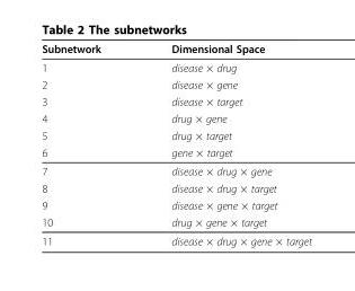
<table><thead><tr><td>Subnetwork</td><td>Dimensional Space</td></tr></thead><tbody><tr><td>1</td><td>disease × drug</td></tr><tr><td>2</td><td>disease × gene</td></tr><tr><td>3</td><td>disease × target</td></tr><tr><td>4</td><td>drug × gene</td></tr><tr><td>5</td><td>drug × target</td></tr><tr><td>6</td><td>gene × target</td></tr><tr><td>7</td><td>disease × drug × gene</td></tr><tr><td>8</td><td>disease × drug × target</td></tr><tr><td>9</td><td>disease × gene × target</td></tr><tr><td>10</td><td>drug × gene × target</td></tr><tr><td>11</td><td>disease × drug × gene × target</td></tr></tbody></table>